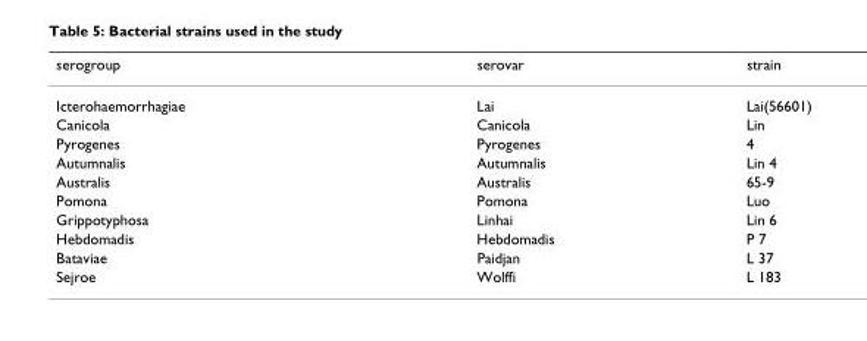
<table><thead><tr><td>serogroup</td><td>serovar</td><td>strain</td></tr></thead><tbody><tr><td>Icterohaemorrhagiae</td><td>Lai</td><td>Lai(56601)</td></tr><tr><td>Canicola</td><td>Canicola</td><td>Lin</td></tr><tr><td>Pyrogenes</td><td>Pyrogenes</td><td>4</td></tr><tr><td>Autumnalis</td><td>Autumnalis</td><td>Lin 4</td></tr><tr><td>Australis</td><td>Australis</td><td>65-9</td></tr><tr><td>Pomona</td><td>Pomona</td><td>Luo</td></tr><tr><td>Grippotyphosa</td><td>Linhai</td><td>Lin 6</td></tr><tr><td>Hebdomadis</td><td>Hebdomadis</td><td>P 7</td></tr><tr><td>Bataviae</td><td>Paidjan</td><td>L 37</td></tr><tr><td>Sejroe</td><td>Wolffi</td><td>L 183</td></tr></tbody></table>